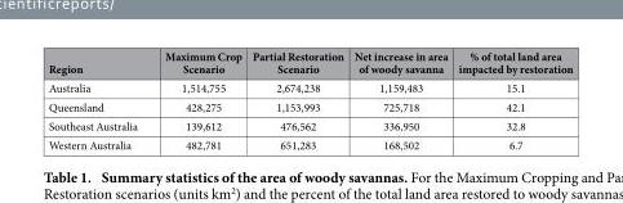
<table><thead><tr><td>Region</td><td>Maximum Crop Scenario</td><td>Partial Restoration Scenario</td><td>Net increase in area of woody savanna</td><td>% of total land area impacted by restoration</td></tr></thead><tbody><tr><td>Australia</td><td>1,514,755</td><td>2,674,238</td><td>1,159,483</td><td>15.1</td></tr><tr><td>Queensland</td><td>428,275</td><td>1,153,993</td><td>725,718</td><td>42.1</td></tr><tr><td>Southeast Australia</td><td>139,612</td><td>476,562</td><td>336,950</td><td>32.8</td></tr><tr><td>Western Australia</td><td>482,781</td><td>651,283</td><td>168,502</td><td>6.7</td></tr></tbody></table>